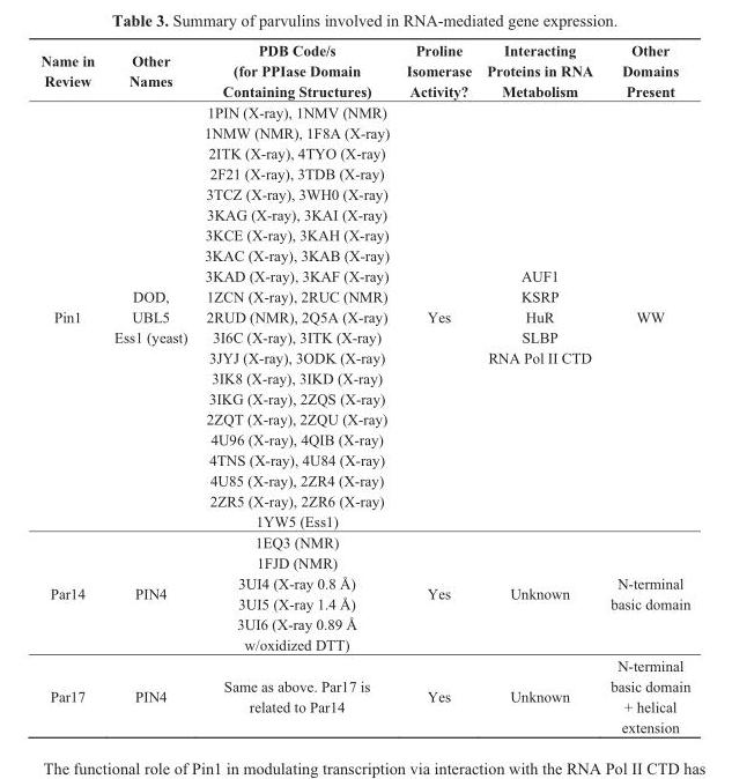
<table><thead><tr><td>Name in Review</td><td>Other Names</td><td>PDB Code/s (for PPIase Domain Containing Structures)</td><td>Proline Isomerase Activity?</td><td>Interacting Proteins in RNA Metabolism</td><td>Other Domains Present</td></tr></thead><tbody><tr><td>Pin1</td><td>DOD, UBL5 Ess1 (yeast)</td><td>1PIN (X-ray), 1NMV (NMR) 1NMW (NMR), 1F8A (X-ray) 2ITK (X-ray), 4TYO (X-ray) 2F21 (X-ray), 3TDB (X-ray) 3TCZ (X-ray), 3WH0 (X-ray) 3KAG (X-ray), 3KAI (X-ray) 3KCE (X-ray), 3KAH (X-ray) 3KAC (X-ray), 3KAB (X-ray) 3KAD (X-ray), 3KAF (X-ray) 1ZCN (X-ray), 2RUC (NMR) 2RUD (NMR), 2Q5A (X-ray) 3I6C (X-ray), 3ITK (X-ray) 3JYJ (X-ray), 3ODK (X-ray) 3IK8 (X-ray), 3IKD (X-ray) 3IKG (X-ray), 2ZQS (X-ray) 2ZQT (X-ray), 2ZQU (X-ray) 4U96 (X-ray), 4QIB (X-ray) 4TNS (X-ray), 4U84 (X-ray) 4U85 (X-ray), 2ZR4 (X-ray) 2ZR5 (X-ray), 2ZR6 (X-ray) 1YW5 (Ess1)</td><td>Yes</td><td>AUF1 KSRP HuR SLBP RNA Pol II CTD</td><td>WW</td></tr><tr><td>Par14</td><td>PIN4</td><td>1EQ3 (NMR) 1FJD (NMR) 3UI4 (X-ray 0.8 Å) 3UI5 (X-ray 1.4 Å) 3UI6 (X-ray 0.89 Å w/oxidized DTT)</td><td>Yes</td><td>Unknown</td><td>N-terminal basic domain</td></tr><tr><td>Par17</td><td>PIN4</td><td>Same as above. Par17 is related to Par14</td><td>Yes</td><td>Unknown</td><td>N-terminal basic domain + helical extension</td></tr></tbody></table>